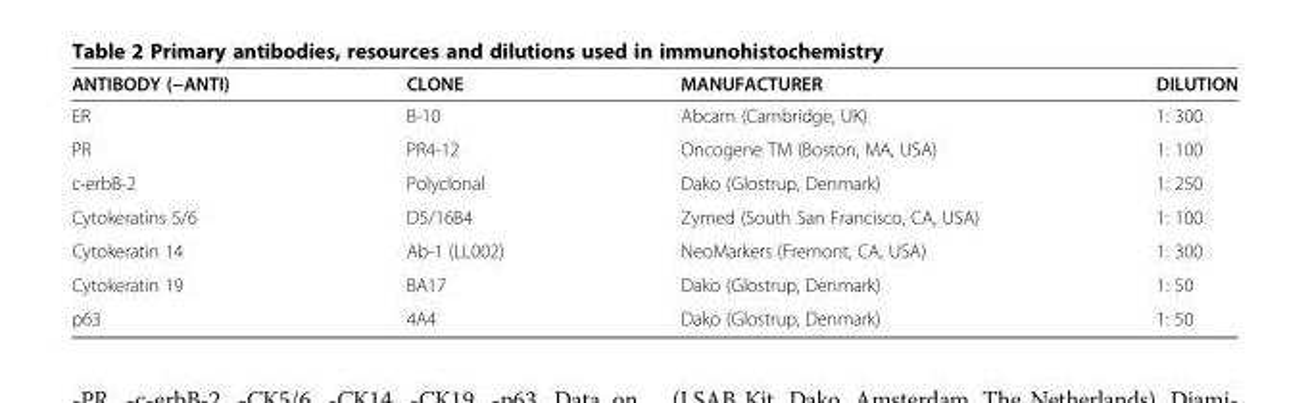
<table><thead><tr><td>ANTIBODY (−ANTI)</td><td>CLONE</td><td>MANUFACTURER</td><td>DILUTION</td></tr></thead><tbody><tr><td>ER</td><td>B-10</td><td>Abcam (Cambridge, UK)</td><td>1: 300</td></tr><tr><td>PR</td><td>PR4-12</td><td>Oncogene TM (Boston, MA, USA)</td><td>1: 100</td></tr><tr><td>c-erbB-2</td><td>Polyclonal</td><td>Dako (Glostrup, Denmark)</td><td>1: 250</td></tr><tr><td>Cytokeratins 5/6</td><td>D5/16B4</td><td>Zymed (South San Francisco, CA, USA)</td><td>1: 100</td></tr><tr><td>Cytokeratin 14</td><td>Ab-1 (LL002)</td><td>NeoMarkers (Fremont, CA, USA)</td><td>1: 300</td></tr><tr><td>Cytokeratin 19</td><td>BA17</td><td>Dako (Glostrup, Denmark)</td><td>1: 50</td></tr><tr><td>p63</td><td>4A4</td><td>Dako (Glostrup, Denmark)</td><td>1: 50</td></tr></tbody></table>